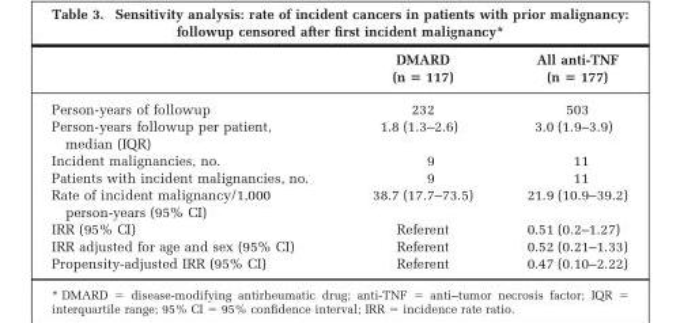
<table><thead><tr><td></td><td>DMARD (n = 117)</td><td>All anti-TNF (n = 177)</td></tr></thead><tbody><tr><td>Person-years of followup</td><td>232</td><td>503</td></tr><tr><td>Person-years followup per patient, median (IQR)</td><td>1.8 (1.3–2.6)</td><td>3.0 (1.9–3.9)</td></tr><tr><td>Incident malignancies, no.</td><td>9</td><td>11</td></tr><tr><td>Patients with incident malignancies, no.</td><td>9</td><td>11</td></tr><tr><td>Rate of incident malignancy/1,000 person-years (95% CI)</td><td>38.7 (17.7–73.5)</td><td>21.9 (10.9–39.2)</td></tr><tr><td>IRR (95% CI)</td><td>Referent</td><td>0.51 (0.2–1.27)</td></tr><tr><td>IRR adjusted for age and sex (95% CI)</td><td>Referent</td><td>0.52 (0.21–1.33)</td></tr><tr><td>Propensity-adjusted IRR (95% CI)</td><td>Referent</td><td>0.47 (0.10–2.22)</td></tr></tbody></table>